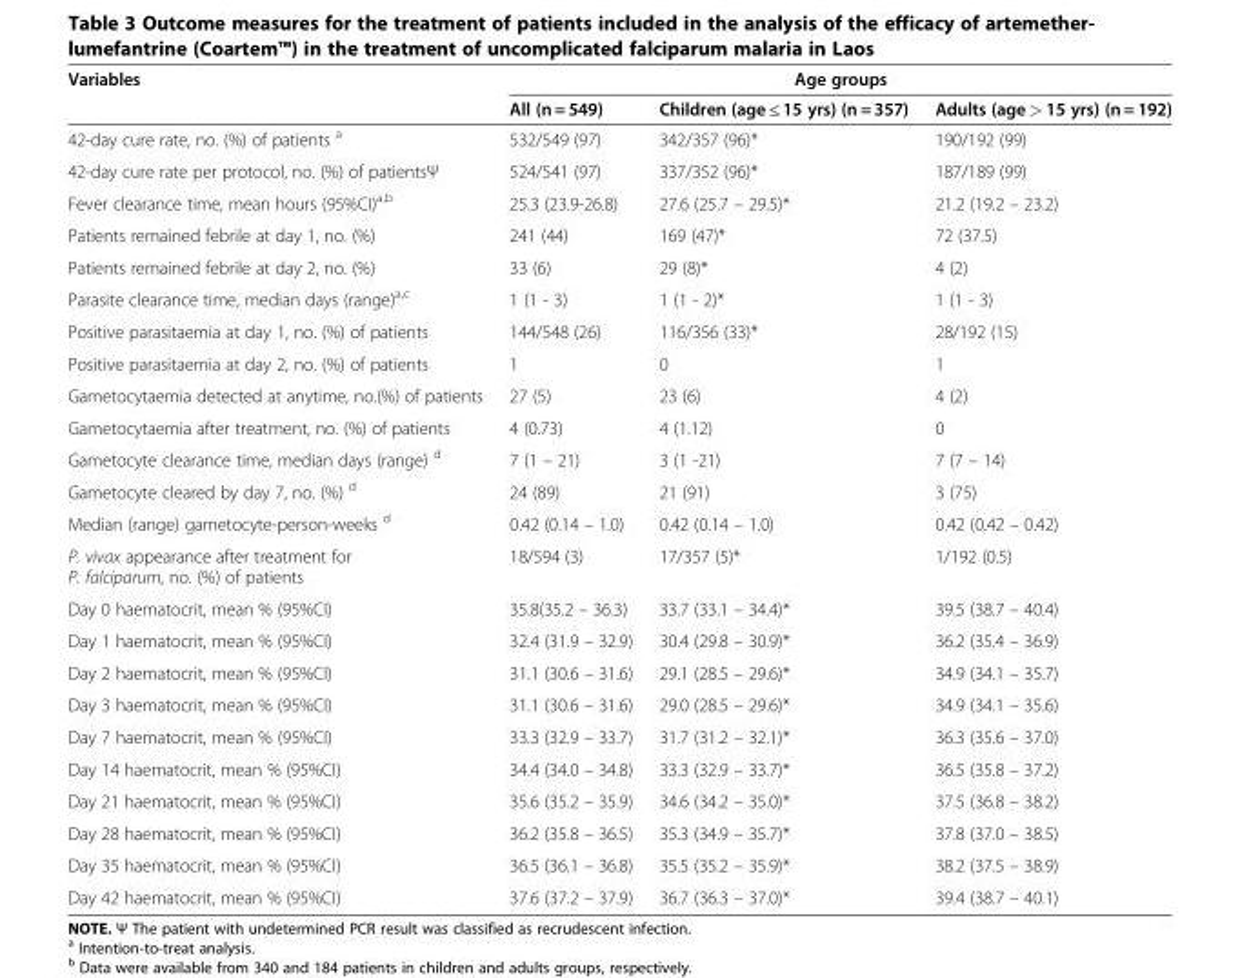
<table><thead><tr><td rowspan="2">Variables</td><td colspan="3">Age groups</td></tr><tr><td>All (n = 549)</td><td>Children (age ≤ 15 yrs) (n = 357)</td><td>Adults (age &gt; 15 yrs) (n = 192)</td></tr></thead><tbody><tr><td>42-day cure rate, no. (%) of patients <sup>a</sup></td><td>532/549 (97)</td><td>342/357 (96)*</td><td>190/192 (99)</td></tr><tr><td>42-day cure rate per protocol, no. (%) of patientsΨ</td><td>524/541 (97)</td><td>337/352 (96)*</td><td>187/189 (99)</td></tr><tr><td>Fever clearance time, mean hours (95%CI)<sup>a,b</sup></td><td>25.3 (23.9-26.8)</td><td>27.6 (25.7 – 29.5)*</td><td>21.2 (19.2 – 23.2)</td></tr><tr><td>Patients remained febrile at day 1, no. (%)</td><td>241 (44)</td><td>169 (47)*</td><td>72 (37.5)</td></tr><tr><td>Patients remained febrile at day 2, no. (%)</td><td>33 (6)</td><td>29 (8)*</td><td>4 (2)</td></tr><tr><td>Parasite clearance time, median days (range)<sup>a,c</sup></td><td>1 (1 - 3)</td><td>1 (1 - 2)*</td><td>1 (1 - 3)</td></tr><tr><td>Positive parasitaemia at day 1, no. (%) of patients</td><td>144/548 (26)</td><td>116/356 (33)*</td><td>28/192 (15)</td></tr><tr><td>Positive parasitaemia at day 2, no. (%) of patients</td><td>1</td><td>0</td><td>1</td></tr><tr><td>Gametocytaemia detected at anytime, no.(%) of patients</td><td>27 (5)</td><td>23 (6)</td><td>4 (2)</td></tr><tr><td>Gametocytaemia after treatment, no. (%) of patients</td><td>4 (0.73)</td><td>4 (1.12)</td><td>0</td></tr><tr><td>Gametocyte clearance time, median days (range) <sup>d</sup></td><td>7 (1 – 21)</td><td>3 (1 -21)</td><td>7 (7 – 14)</td></tr><tr><td>Gametocyte cleared by day 7, no. (%) <sup>d</sup></td><td>24 (89)</td><td>21 (91)</td><td>3 (75)</td></tr><tr><td>Median (range) gametocyte-person-weeks <sup>d</sup></td><td>0.42 (0.14 – 1.0)</td><td>0.42 (0.14 – 1.0)</td><td>0.42 (0.42 – 0.42)</td></tr><tr><td>P. vivax appearance after treatment for P. falciparum, no. (%) of patients</td><td>18/594 (3)</td><td>17/357 (5)*</td><td>1/192 (0.5)</td></tr><tr><td>Day 0 haematocrit, mean % (95%CI)</td><td>35.8(35.2 – 36.3)</td><td>33.7 (33.1 – 34.4)*</td><td>39.5 (38.7 – 40.4)</td></tr><tr><td>Day 1 haematocrit, mean % (95%CI)</td><td>32.4 (31.9 – 32.9)</td><td>30.4 (29.8 – 30.9)*</td><td>36.2 (35.4 – 36.9)</td></tr><tr><td>Day 2 haematocrit, mean % (95%CI)</td><td>31.1 (30.6 – 31.6)</td><td>29.1 (28.5 – 29.6)*</td><td>34.9 (34.1 – 35.7)</td></tr><tr><td>Day 3 haematocrit, mean % (95%CI)</td><td>31.1 (30.6 – 31.6)</td><td>29.0 (28.5 – 29.6)*</td><td>34.9 (34.1 – 35.6)</td></tr><tr><td>Day 7 haematocrit, mean % (95%CI)</td><td>33.3 (32.9 – 33.7)</td><td>31.7 (31.2 – 32.1)*</td><td>36.3 (35.6 – 37.0)</td></tr><tr><td>Day 14 haematocrit, mean % (95%CI)</td><td>34.4 (34.0 – 34.8)</td><td>33.3 (32.9 – 33.7)*</td><td>36.5 (35.8 – 37.2)</td></tr><tr><td>Day 21 haematocrit, mean % (95%CI)</td><td>35.6 (35.2 – 35.9)</td><td>34.6 (34.2 – 35.0)*</td><td>37.5 (36.8 – 38.2)</td></tr><tr><td>Day 28 haematocrit, mean % (95%CI)</td><td>36.2 (35.8 – 36.5)</td><td>35.3 (34.9 – 35.7)*</td><td>37.8 (37.0 – 38.5)</td></tr><tr><td>Day 35 haematocrit, mean % (95%CI)</td><td>36.5 (36.1 – 36.8)</td><td>35.5 (35.2 – 35.9)*</td><td>38.2 (37.5 – 38.9)</td></tr><tr><td>Day 42 haematocrit, mean % (95%CI)</td><td>37.6 (37.2 – 37.9)</td><td>36.7 (36.3 – 37.0)*</td><td>39.4 (38.7 – 40.1)</td></tr></tbody></table>